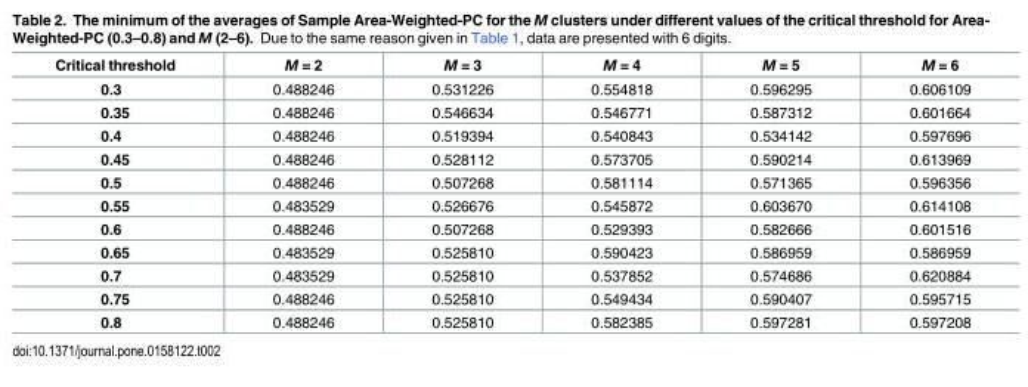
<table><thead><tr><td>Critical threshold</td><td>M = 2</td><td>M = 3</td><td>M = 4</td><td>M = 5</td><td>M = 6</td></tr></thead><tbody><tr><td>0.3</td><td>0.488246</td><td>0.531226</td><td>0.554818</td><td>0.596295</td><td>0.606109</td></tr><tr><td>0.35</td><td>0.488246</td><td>0.546634</td><td>0.546771</td><td>0.587312</td><td>0.601664</td></tr><tr><td>0.4</td><td>0.488246</td><td>0.519394</td><td>0.540843</td><td>0.534142</td><td>0.597696</td></tr><tr><td>0.45</td><td>0.488246</td><td>0.528112</td><td>0.573705</td><td>0.590214</td><td>0.613969</td></tr><tr><td>0.5</td><td>0.488246</td><td>0.507268</td><td>0.581114</td><td>0.571365</td><td>0.596356</td></tr><tr><td>0.55</td><td>0.483529</td><td>0.526676</td><td>0.545872</td><td>0.603670</td><td>0.614108</td></tr><tr><td>0.6</td><td>0.488246</td><td>0.507268</td><td>0.529393</td><td>0.582666</td><td>0.601516</td></tr><tr><td>0.65</td><td>0.483529</td><td>0.525810</td><td>0.590423</td><td>0.586959</td><td>0.586959</td></tr><tr><td>0.7</td><td>0.483529</td><td>0.525810</td><td>0.537852</td><td>0.574686</td><td>0.620884</td></tr><tr><td>0.75</td><td>0.488246</td><td>0.525810</td><td>0.549434</td><td>0.590407</td><td>0.595715</td></tr><tr><td>0.8</td><td>0.488246</td><td>0.525810</td><td>0.582385</td><td>0.597281</td><td>0.597208</td></tr></tbody></table>